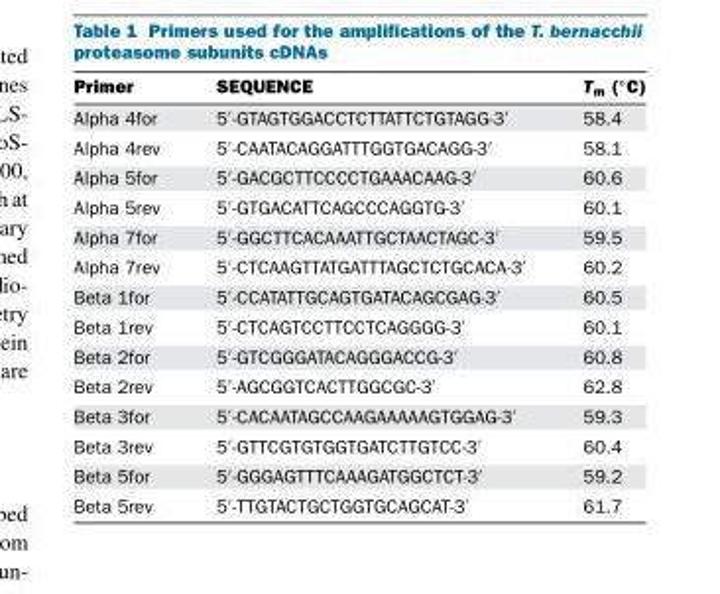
<table><thead><tr><td>Primer</td><td>SEQUENCE</td><td>Tm (◦C)</td></tr></thead><tbody><tr><td>Alpha 4for</td><td>5′-GTAGTGGACCTCTTATTCTGTAGG-3′</td><td>58.4</td></tr><tr><td>Alpha 4rev</td><td>5′-CAATACAGGATTTGGTGACAGG-3′</td><td>58.1</td></tr><tr><td>Alpha 5for</td><td>5′-GACGCTTCCCCTGAAACAAG-3′</td><td>60.6</td></tr><tr><td>Alpha 5rev</td><td>5′-GTGACATTCAGCCCAGGTG-3′</td><td>60.1</td></tr><tr><td>Alpha 7for</td><td>5′-GGCTTCACAAATTGCTAACTAGC-3′</td><td>59.5</td></tr><tr><td>Alpha 7rev</td><td>5′-CTCAAGTTATGATTTAGCTCTGCACA-3′</td><td>60.2</td></tr><tr><td>Beta 1for</td><td>5′-CCATATTGCAGTGATACAGCGAG-3′</td><td>60.5</td></tr><tr><td>Beta 1rev</td><td>5′-CTCAGTCCTTCCTCAGGGG-3′</td><td>60.1</td></tr><tr><td>Beta 2for</td><td>5′-GTCGGGATACAGGGACCG-3′</td><td>60.8</td></tr><tr><td>Beta 2rev</td><td>5′-AGCGGTCACTTGGCGC-3′</td><td>62.8</td></tr><tr><td>Beta 3for</td><td>5′-CACAATAGCCAAGAAAAAGTGGAG-3′</td><td>59.3</td></tr><tr><td>Beta 3rev</td><td>5′-GTTCGTGTGGTGATCTTGTCC-3′</td><td>60.4</td></tr><tr><td>Beta 5for</td><td>5′-GGGAGTTTCAAAGATGGCTCT-3′</td><td>59.2</td></tr><tr><td>Beta 5rev</td><td>5′-TTGTACTGCTGGTGCAGCAT-3′</td><td>61.7</td></tr></tbody></table>